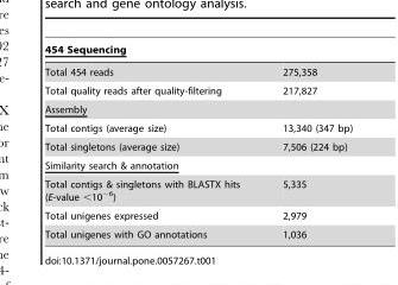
<table><thead><tr><td>454 Sequencing</td><td></td></tr></thead><tbody><tr><td>Total 454 reads</td><td>275,358</td></tr><tr><td>Total quality reads after quality-filtering</td><td>217,827</td></tr><tr><td colspan="2">Assembly</td></tr><tr><td>Total contigs (average size)</td><td>13,340 (347 bp)</td></tr><tr><td>Total singletons (average size)</td><td>7,506 (224 bp)</td></tr><tr><td colspan="2">Similarity search &amp; annotation</td></tr><tr><td>Total contigs &amp; singletons with BLASTX hits (E-value &lt;10<sup>−6</sup>)</td><td>5,335</td></tr><tr><td>Total unigenes expressed</td><td>2,979</td></tr><tr><td>Total unigenes with GO annotations</td><td>1,036</td></tr></tbody></table>